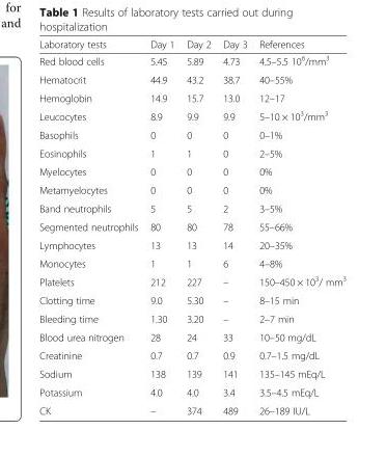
<table><thead><tr><td>Laboratory tests</td><td>Day 1</td><td>Day 2</td><td>Day 3</td><td>References</td></tr></thead><tbody><tr><td>Red blood cells</td><td>5.45</td><td>5.89</td><td>4.73</td><td>4.5–5.5 10<sup>6</sup>/mm<sup>3</sup></td></tr><tr><td>Hematocrit</td><td>44.9</td><td>43.2</td><td>38.7</td><td>40–55%</td></tr><tr><td>Hemoglobin</td><td>14.9</td><td>15.7</td><td>13.0</td><td>12–17</td></tr><tr><td>Leucocytes</td><td>8.9</td><td>9.9</td><td>9.9</td><td>5–10 × 10<sup>3</sup>/mm<sup>3</sup></td></tr><tr><td>Basophils</td><td>0</td><td>0</td><td>0</td><td>0–1%</td></tr><tr><td>Eosinophils</td><td>1</td><td>1</td><td>0</td><td>2–5%</td></tr><tr><td>Myelocytes</td><td>0</td><td>0</td><td>0</td><td>0%</td></tr><tr><td>Metamyelocytes</td><td>0</td><td>0</td><td>0</td><td>0%</td></tr><tr><td>Band neutrophils</td><td>5</td><td>5</td><td>2</td><td>3–5%</td></tr><tr><td>Segmented neutrophils</td><td>80</td><td>80</td><td>78</td><td>55–66%</td></tr><tr><td>Lymphocytes</td><td>13</td><td>13</td><td>14</td><td>20–35%</td></tr><tr><td>Monocytes</td><td>1</td><td>1</td><td>6</td><td>4–8%</td></tr><tr><td>Platelets</td><td>212</td><td>227</td><td>–</td><td>150–450 × 10<sup>3</sup>/ mm<sup>3</sup></td></tr><tr><td>Clotting time</td><td>9.0</td><td>5.30</td><td>–</td><td>8–15 min</td></tr><tr><td>Bleeding time</td><td>1.30</td><td>3.20</td><td>–</td><td>2–7 min</td></tr><tr><td>Blood urea nitrogen</td><td>28</td><td>24</td><td>33</td><td>10–50 mg/dL</td></tr><tr><td>Creatinine</td><td>0.7</td><td>0.7</td><td>0.9</td><td>0.7–1.5 mg/dL</td></tr><tr><td>Sodium</td><td>138</td><td>139</td><td>141</td><td>135–145 mEq/L</td></tr><tr><td>Potassium</td><td>4.0</td><td>4.0</td><td>3.4</td><td>3.5–4.5 mEq/L</td></tr><tr><td>CK</td><td>–</td><td>374</td><td>489</td><td>26–189 IU/L</td></tr></tbody></table>